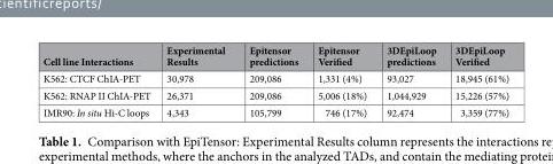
<table><thead><tr><td>Cell line Interactions</td><td>Experimental Results</td><td>Epitensor predictions</td><td>Epitensor Verified</td><td>3DEpiLoop predictions</td><td>3DEpiLoop Verified</td></tr></thead><tbody><tr><td>K562: CTCF ChIA-PET</td><td>30,978</td><td>209,086</td><td>1,331 (4%)</td><td>93,027</td><td>18,945 (61%)</td></tr><tr><td>K562: RNAP II ChIA-PET</td><td>26,371</td><td>209,086</td><td>5,006 (18%)</td><td>1,044,929</td><td>15,226 (57%)</td></tr><tr><td>IMR90: In situ Hi-C loops</td><td>4,343</td><td>105,799</td><td>746 (17%)</td><td>92,474</td><td>3,359 (77%)</td></tr></tbody></table>